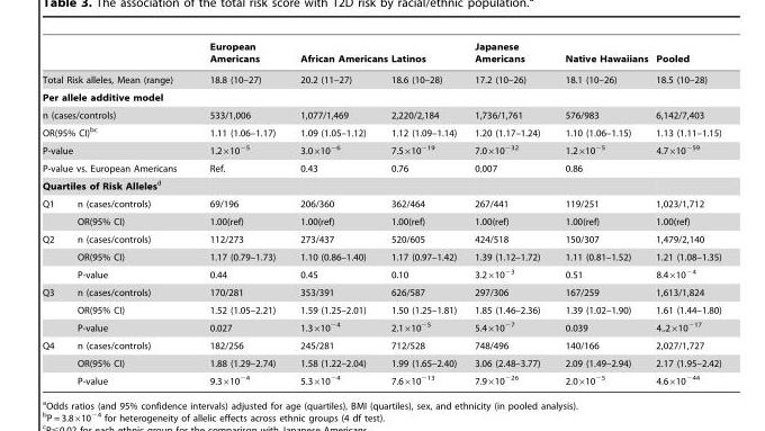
<table><thead><tr><td></td><td></td><td>European Americans</td><td>African Americans</td><td>Latinos</td><td>Japanese Americans</td><td>Native Hawaiians</td><td>Pooled</td></tr></thead><tbody><tr><td colspan="2">Total Risk alleles, Mean (range)</td><td>18.8 (10–27)</td><td>20.2 (11–27)</td><td>18.6 (10–28)</td><td>17.2 (10–26)</td><td>18.1 (10–26)</td><td>18.5 (10–28)</td></tr><tr><td colspan="8">Per allele additive model</td></tr><tr><td colspan="2">n (cases/controls)</td><td>533/1,006</td><td>1,077/1,469</td><td>2,220/2,184</td><td>1,736/1,761</td><td>576/983</td><td>6,142/7,403</td></tr><tr><td colspan="2">OR(95% CI)<sup>bc</sup></td><td>1.11 (1.06–1.17)</td><td>1.09 (1.05–1.12)</td><td>1.12 (1.09–1.14)</td><td>1.20 (1.17–1.24)</td><td>1.10 (1.06–1.15)</td><td>1.13 (1.11–1.15)</td></tr><tr><td colspan="2">P-value</td><td>1.2×10<sup>−5</sup></td><td>3.0×10<sup>−6</sup></td><td>7.5×10<sup>−19</sup></td><td>7.0×10<sup>−32</sup></td><td>1.2×10<sup>−5</sup></td><td>4.7×10<sup>−59</sup></td></tr><tr><td colspan="2">P-value vs. European Americans</td><td>Ref.</td><td>0.43</td><td>0.76</td><td>0.007</td><td>0.86</td><td></td></tr><tr><td colspan="8">Quartiles of Risk Allelesd</td></tr><tr><td rowspan="2">Q1</td><td>n (cases/controls)</td><td>69/196</td><td>206/360</td><td>362/464</td><td>267/441</td><td>119/251</td><td>1,023/1,712</td></tr><tr><td>OR(95% CI)</td><td>1.00(ref)</td><td>1.00(ref)</td><td>1.00(ref)</td><td>1.00(ref)</td><td>1.00(ref)</td><td>1.00(ref)</td></tr><tr><td rowspan="3">Q2</td><td>n (cases/controls)</td><td>112/273</td><td>273/437</td><td>520/605</td><td>424/518</td><td>150/307</td><td>1,479/2,140</td></tr><tr><td>OR(95% CI)</td><td>1.17 (0.79–1.73)</td><td>1.10 (0.86–1.40)</td><td>1.17 (0.97–1.42)</td><td>1.39 (1.12–1.72)</td><td>1.11 (0.81–1.52)</td><td>1.21 (1.08–1.35)</td></tr><tr><td>P-value</td><td>0.44</td><td>0.45</td><td>0.10</td><td>3.2×10<sup>−3</sup></td><td>0.51</td><td>8.4×10<sup>−4</sup></td></tr><tr><td rowspan="3">Q3</td><td>n (cases/controls)</td><td>170/281</td><td>353/391</td><td>626/587</td><td>297/306</td><td>167/259</td><td>1,613/1,824</td></tr><tr><td>OR(95% CI)</td><td>1.52 (1.05–2.21)</td><td>1.59 (1.25–2.01)</td><td>1.50 (1.25–1.81)</td><td>1.85 (1.46–2.36)</td><td>1.39 (1.02–1.90)</td><td>1.61 (1.44–1.80)</td></tr><tr><td>P-value</td><td>0.027</td><td>1.3×10<sup>−4</sup></td><td>2.1×10<sup>−5</sup></td><td>5.4×10<sup>−7</sup></td><td>0.039</td><td>4..2×10<sup>−17</sup></td></tr><tr><td rowspan="3">Q4</td><td>n (cases/controls)</td><td>182/256</td><td>245/281</td><td>712/528</td><td>748/496</td><td>140/166</td><td>2,027/1,727</td></tr><tr><td>OR(95% CI)</td><td>1.88 (1.29–2.74)</td><td>1.58 (1.22–2.04)</td><td>1.99 (1.65–2.40)</td><td>3.06 (2.48–3.77)</td><td>2.09 (1.49–2.94)</td><td>2.17 (1.95–2.42)</td></tr><tr><td>P-value</td><td>9.3×10<sup>−4</sup></td><td>5.3×10<sup>−4</sup></td><td>7.6×10<sup>−13</sup></td><td>7.9×10<sup>−26</sup></td><td>2.0×10<sup>−5</sup></td><td>4.6×10<sup>−44</sup></td></tr></tbody></table>